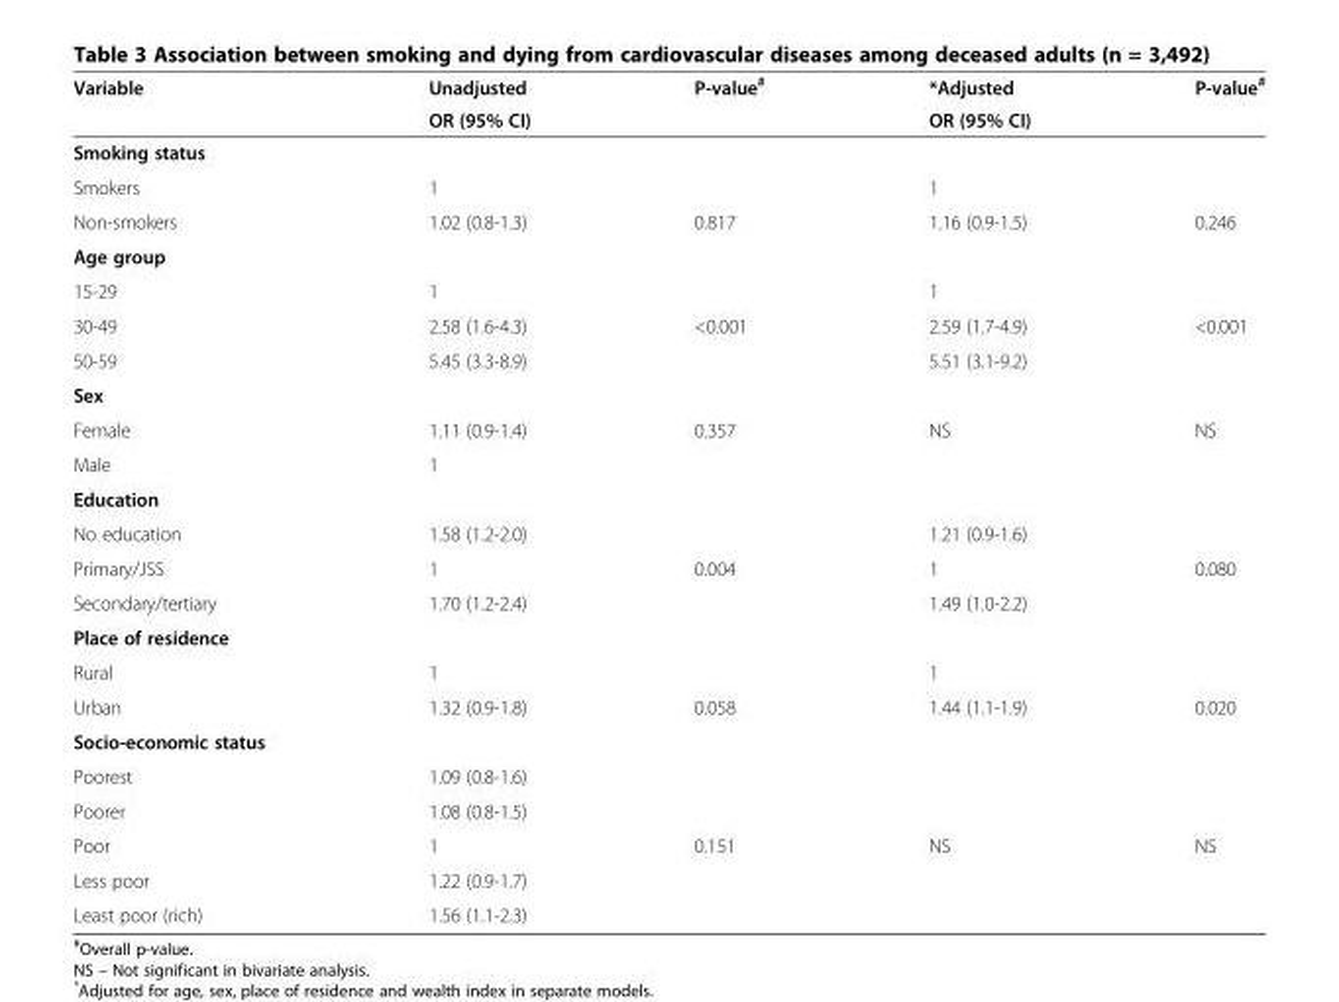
<table><thead><tr><td rowspan="2">Variable</td><td rowspan="2">Unadjusted OR (95% CI)</td><td rowspan="2">P-value<sup>#</sup></td><td rowspan="2">*Adjusted OR (95% CI)</td><td rowspan="2">P-value<sup>#</sup></td></tr><tr></tr></thead><tbody><tr><td colspan="5">Smoking status</td></tr><tr><td>Smokers</td><td>1</td><td></td><td>1</td><td></td></tr><tr><td>Non-smokers</td><td>1.02 (0.8-1.3)</td><td>0.817</td><td>1.16 (0.9-1.5)</td><td>0.246</td></tr><tr><td colspan="5">Age group</td></tr><tr><td>15-29</td><td>1</td><td></td><td>1</td><td></td></tr><tr><td>30-49</td><td>2.58 (1.6-4.3)</td><td>&lt;0.001</td><td>2.59 (1.7-4.9)</td><td>&lt;0.001</td></tr><tr><td>50-59</td><td>5.45 (3.3-8.9)</td><td></td><td>5.51 (3.1-9.2)</td><td></td></tr><tr><td colspan="5">Sex</td></tr><tr><td>Female</td><td>1.11 (0.9-1.4)</td><td>0.357</td><td>NS</td><td>NS</td></tr><tr><td>Male</td><td>1</td><td></td><td></td><td></td></tr><tr><td colspan="5">Education</td></tr><tr><td>No education</td><td>1.58 (1.2-2.0)</td><td></td><td>1.21 (0.9-1.6)</td><td></td></tr><tr><td>Primary/JSS</td><td>1</td><td>0.004</td><td>1</td><td>0.080</td></tr><tr><td>Secondary/tertiary</td><td>1.70 (1.2-2.4)</td><td></td><td>1.49 (1.0-2.2)</td><td></td></tr><tr><td colspan="5">Place of residence</td></tr><tr><td>Rural</td><td>1</td><td></td><td>1</td><td></td></tr><tr><td>Urban</td><td>1.32 (0.9-1.8)</td><td>0.058</td><td>1.44 (1.1-1.9)</td><td>0.020</td></tr><tr><td colspan="5">Socio-economic status</td></tr><tr><td>Poorest</td><td>1.09 (0.8-1.6)</td><td></td><td></td><td></td></tr><tr><td>Poorer</td><td>1.08 (0.8-1.5)</td><td></td><td></td><td></td></tr><tr><td>Poor</td><td>1</td><td>0.151</td><td>NS</td><td>NS</td></tr><tr><td>Less poor</td><td>1.22 (0.9-1.7)</td><td></td><td></td><td></td></tr><tr><td>Least poor (rich)</td><td>1.56 (1.1-2.3)</td><td></td><td></td><td></td></tr></tbody></table>